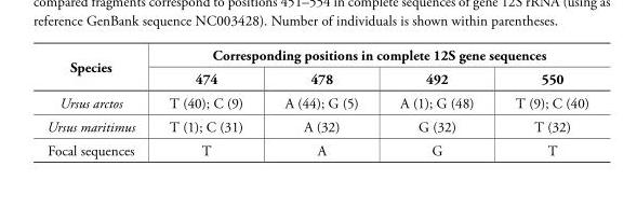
<table><thead><tr><td rowspan="2">Species</td><td colspan="4">Corresponding positions in complete 12S gene sequences</td></tr><tr><td>474</td><td>478</td><td>492</td><td>550</td></tr></thead><tbody><tr><td>Ursus arctos</td><td>T (40); C (9)</td><td>A (44); G (5)</td><td>A (1); G (48)</td><td>T (9); C (40)</td></tr><tr><td>Ursus maritimus</td><td>T (1); C (31)</td><td>A (32)</td><td>G (32)</td><td>T (32)</td></tr><tr><td>Focal sequences</td><td>T</td><td>A</td><td>G</td><td>T</td></tr></tbody></table>